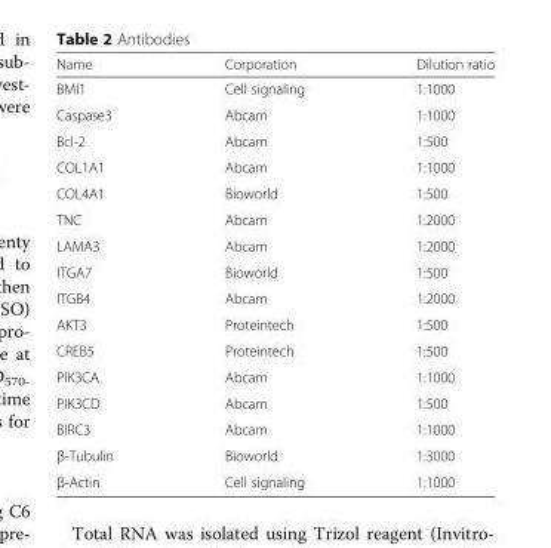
<table><thead><tr><td>Name</td><td>Corporation</td><td>Dilution ratio</td></tr></thead><tbody><tr><td>BMI1</td><td>Cell signaling</td><td>1:1000</td></tr><tr><td>Caspase3</td><td>Abcam</td><td>1:1000</td></tr><tr><td>Bcl-2</td><td>Abcam</td><td>1:500</td></tr><tr><td>COL1A1</td><td>Abcam</td><td>1:1000</td></tr><tr><td>COL4A1</td><td>Bioworld</td><td>1:500</td></tr><tr><td>TNC</td><td>Abcam</td><td>1:2000</td></tr><tr><td>LAMA3</td><td>Abcam</td><td>1:2000</td></tr><tr><td>ITGA7</td><td>Bioworld</td><td>1:500</td></tr><tr><td>ITGB4</td><td>Abcam</td><td>1:2000</td></tr><tr><td>AKT3</td><td>Proteintech</td><td>1:500</td></tr><tr><td>CREB5</td><td>Proteintech</td><td>1:500</td></tr><tr><td>PIK3CA</td><td>Abcam</td><td>1:1000</td></tr><tr><td>PIK3CD</td><td>Abcam</td><td>1:500</td></tr><tr><td>BIRC3</td><td>Abcam</td><td>1:1000</td></tr><tr><td>β-Tubulin</td><td>Bioworld</td><td>1:3000</td></tr><tr><td>β-Actin</td><td>Cell signaling</td><td>1:1000</td></tr></tbody></table>